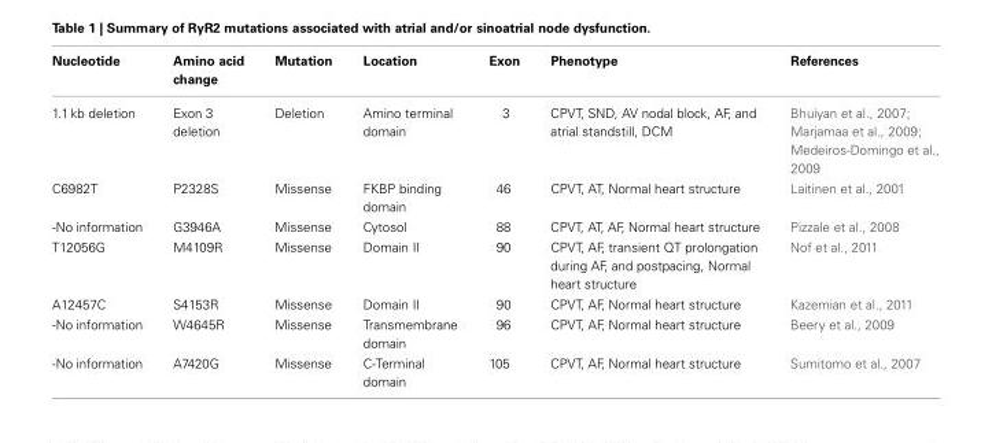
<table><thead><tr><td>Nucleotide</td><td>Amino acid change</td><td>Mutation</td><td>Location</td><td>Exon</td><td>Phenotype</td><td>References</td></tr></thead><tbody><tr><td>1.1 kb deletion</td><td>Exon 3 deletion</td><td>Deletion</td><td>Amino terminal domain</td><td>3</td><td>CPVT, SND, AV nodal block, AF, and atrial standstill, DCM</td><td>Bhuiyan et al., 2007; Marjamaa et al., 2009; Medeiros-Domingo et al., 2009</td></tr><tr><td>C6982T</td><td>P2328S</td><td>Missense</td><td>FKBP binding domain</td><td>46</td><td>CPVT, AT, Normal heart structure</td><td>Laitinen et al., 2001</td></tr><tr><td>-No information</td><td>G3946A</td><td>Missense</td><td>Cytosol</td><td>88</td><td>CPVT, AT, AF, Normal heart structure</td><td>Pizzale et al., 2008</td></tr><tr><td>T12056G</td><td>M4109R</td><td>Missense</td><td>Domain II</td><td>90</td><td>CPVT, AF, transient QT prolongation during AF, and postpacing, Normal heart structure</td><td>Nof et al., 2011</td></tr><tr><td>A12457C</td><td>S4153R</td><td>Missense</td><td>Domain II</td><td>90</td><td>CPVT, AF, Normal heart structure</td><td>Kazemian et al., 2011</td></tr><tr><td>-No information</td><td>W4645R</td><td>Missense</td><td>Transmembrane domain</td><td>96</td><td>CPVT, AF, Normal heart structure</td><td>Beery et al., 2009</td></tr><tr><td>-No information</td><td>A7420G</td><td>Missense</td><td>C-Terminal domain</td><td>105</td><td>CPVT, AF, Normal heart structure</td><td>Sumitomo et al., 2007</td></tr></tbody></table>